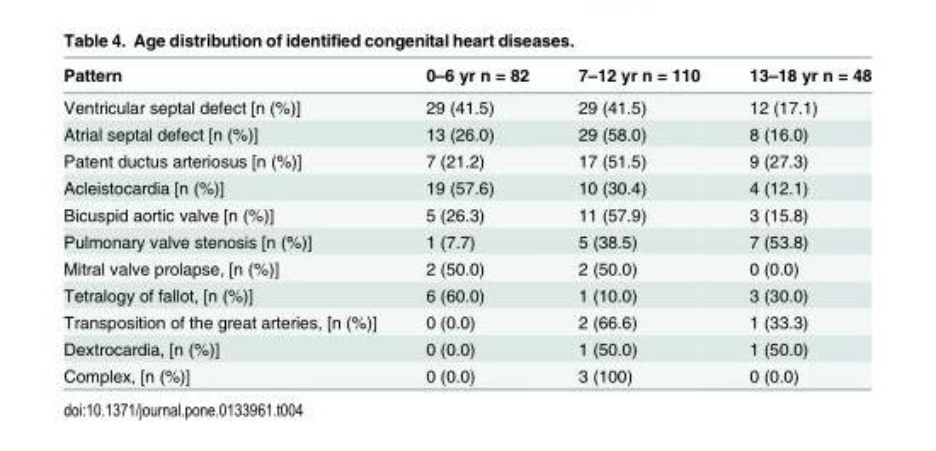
<table><thead><tr><td>Pattern</td><td>0–6 yr n = 82</td><td>7–12 yr n = 110</td><td>13–18 yr n = 48</td></tr></thead><tbody><tr><td>Ventricular septal defect [n (%)]</td><td>29 (41.5)</td><td>29 (41.5)</td><td>12 (17.1)</td></tr><tr><td>Atrial septal defect [n (%)]</td><td>13 (26.0)</td><td>29 (58.0)</td><td>8 (16.0)</td></tr><tr><td>Patent ductus arteriosus [n (%)]</td><td>7 (21.2)</td><td>17 (51.5)</td><td>9 (27.3)</td></tr><tr><td>Acleistocardia [n (%)]</td><td>19 (57.6)</td><td>10 (30.4)</td><td>4 (12.1)</td></tr><tr><td>Bicuspid aortic valve [n (%)]</td><td>5 (26.3)</td><td>11 (57.9)</td><td>3 (15.8)</td></tr><tr><td>Pulmonary valve stenosis [n (%)]</td><td>1 (7.7)</td><td>5 (38.5)</td><td>7 (53.8)</td></tr><tr><td>Mitral valve prolapse, [n (%)]</td><td>2 (50.0)</td><td>2 (50.0)</td><td>0 (0.0)</td></tr><tr><td>Tetralogy of fallot, [n (%)]</td><td>6 (60.0)</td><td>1 (10.0)</td><td>3 (30.0)</td></tr><tr><td>Transposition of the great arteries, [n (%)]</td><td>0 (0.0)</td><td>2 (66.6)</td><td>1 (33.3)</td></tr><tr><td>Dextrocardia, [n (%)]</td><td>0 (0.0)</td><td>1 (50.0)</td><td>1 (50.0)</td></tr><tr><td>Complex, [n (%)]</td><td>0 (0.0)</td><td>3 (100)</td><td>0 (0.0)</td></tr></tbody></table>